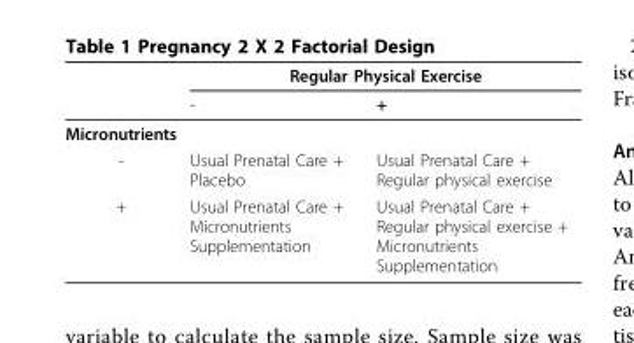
<table><thead><tr><td rowspan="2"></td><td colspan="2">Regular Physical Exercise</td></tr><tr><td>-</td><td>+</td></tr></thead><tbody><tr><td colspan="3">Micronutrients</td></tr><tr><td>-</td><td>Usual Prenatal Care + Placebo</td><td>Usual Prenatal Care + Regular physical exercise</td></tr><tr><td>+</td><td>Usual Prenatal Care + Micronutrients Supplementation</td><td>Usual Prenatal Care + Regular physical exercise + Micronutrients Supplementation</td></tr></tbody></table>